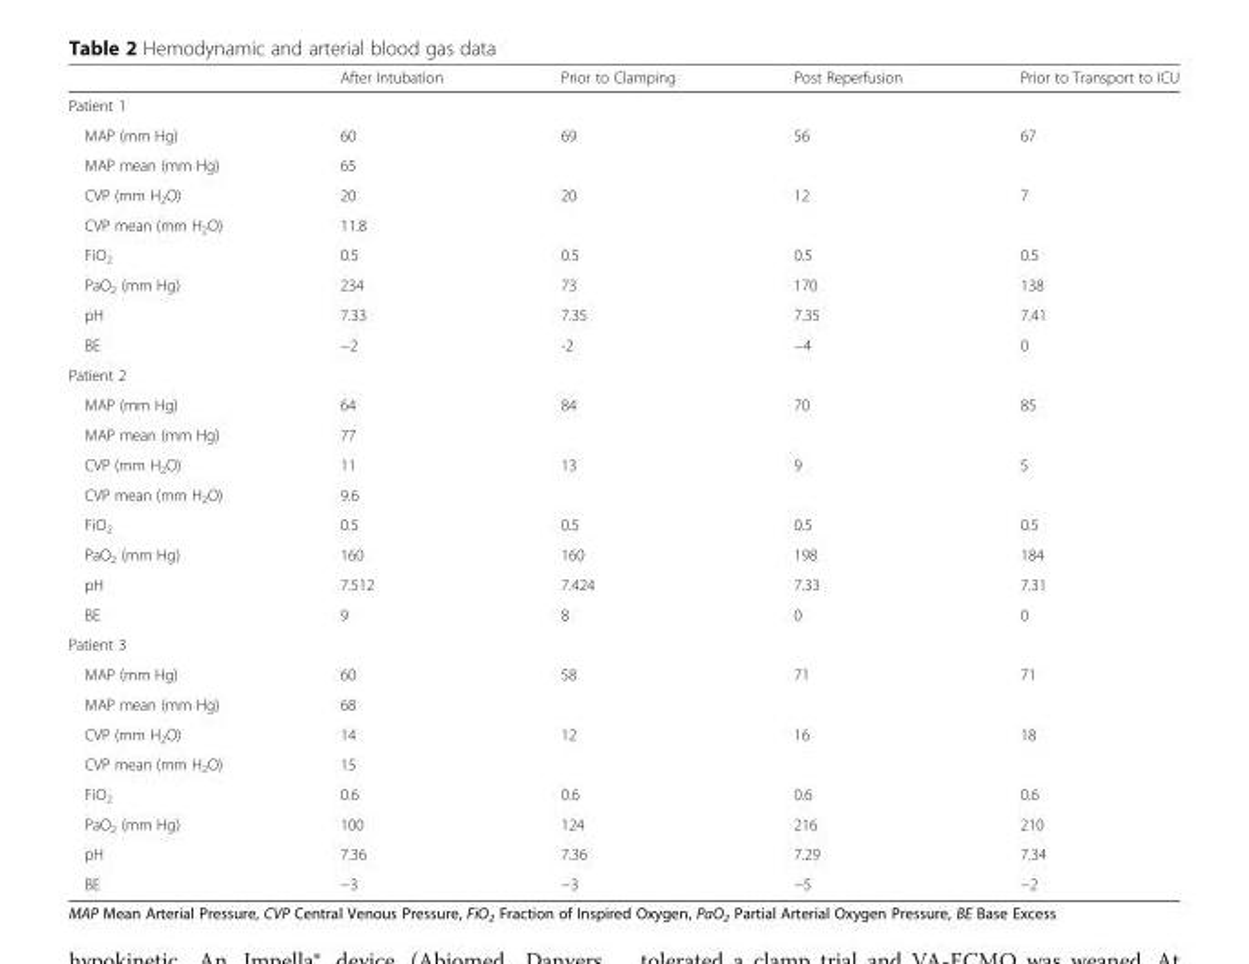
<table><thead><tr><td></td><td>After Intubation</td><td>Prior to Clamping</td><td>Post Reperfusion</td><td>Prior to Transport to ICU</td></tr></thead><tbody><tr><td colspan="5">Patient 1</td></tr><tr><td>MAP (mm Hg)</td><td>60</td><td>69</td><td>56</td><td>67</td></tr><tr><td>MAP mean (mm Hg)</td><td colspan="4">65</td></tr><tr><td>CVP (mm H<sub>2</sub>O)</td><td>20</td><td>20</td><td>12</td><td>7</td></tr><tr><td>CVP mean (mm H<sub>2</sub>O)</td><td colspan="4">11.8</td></tr><tr><td>FiO<sub>2</sub></td><td>0.5</td><td>0.5</td><td>0.5</td><td>0.5</td></tr><tr><td>PaO<sub>2</sub> (mm Hg)</td><td>234</td><td>73</td><td>170</td><td>138</td></tr><tr><td>pH</td><td>7.33</td><td>7.35</td><td>7.35</td><td>7.41</td></tr><tr><td>BE</td><td>−2</td><td>-2</td><td>−4</td><td>0</td></tr><tr><td colspan="5">Patient 2</td></tr><tr><td>MAP (mm Hg)</td><td>64</td><td>84</td><td>70</td><td>85</td></tr><tr><td>MAP mean (mm Hg)</td><td colspan="4">77</td></tr><tr><td>CVP (mm H<sub>2</sub>O)</td><td>11</td><td>13</td><td>9</td><td>5</td></tr><tr><td>CVP mean (mm H<sub>2</sub>O)</td><td colspan="4">9.6</td></tr><tr><td>FiO<sub>2</sub></td><td>0.5</td><td>0.5</td><td>0.5</td><td>0.5</td></tr><tr><td>PaO<sub>2</sub> (mm Hg)</td><td>160</td><td>160</td><td>198</td><td>184</td></tr><tr><td>pH</td><td>7.512</td><td>7.424</td><td>7.33</td><td>7.31</td></tr><tr><td>BE</td><td>9</td><td>8</td><td>0</td><td>0</td></tr><tr><td colspan="5">Patient 3</td></tr><tr><td>MAP (mm Hg)</td><td>60</td><td>58</td><td>71</td><td>71</td></tr><tr><td>MAP mean (mm Hg)</td><td colspan="4">68</td></tr><tr><td>CVP (mm H<sub>2</sub>O)</td><td>14</td><td>12</td><td>16</td><td>18</td></tr><tr><td>CVP mean (mm H<sub>2</sub>O)</td><td colspan="4">15</td></tr><tr><td>FiO<sub>2</sub></td><td>0.6</td><td>0.6</td><td>0.6</td><td>0.6</td></tr><tr><td>PaO<sub>2</sub> (mm Hg)</td><td>100</td><td>124</td><td>216</td><td>210</td></tr><tr><td>pH</td><td>7.36</td><td>7.36</td><td>7.29</td><td>7.34</td></tr><tr><td>BE</td><td>−3</td><td>−3</td><td>−5</td><td>−2</td></tr></tbody></table>